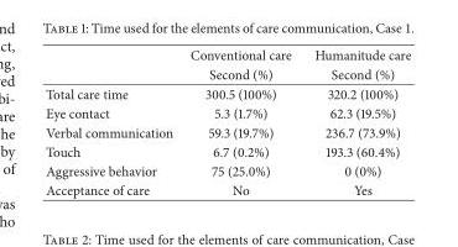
<table><thead><tr><td rowspan="2"></td><td rowspan="2">Conventional care Second (%)</td><td rowspan="2">Humanitude care Second (%)</td></tr><tr></tr></thead><tbody><tr><td>Total care time</td><td>300.5 (100%)</td><td>320.2 (100%)</td></tr><tr><td>Eye contact</td><td>5.3 (1.7%)</td><td>62.3 (19.5%)</td></tr><tr><td>Verbal communication</td><td>59.3 (19.7%)</td><td>236.7 (73.9%)</td></tr><tr><td>Touch</td><td>6.7 (0.2%)</td><td>193.3 (60.4%)</td></tr><tr><td>Aggressive behavior</td><td>75 (25.0%)</td><td>0 (0%)</td></tr><tr><td>Acceptance of care</td><td>No</td><td>Yes</td></tr></tbody></table>